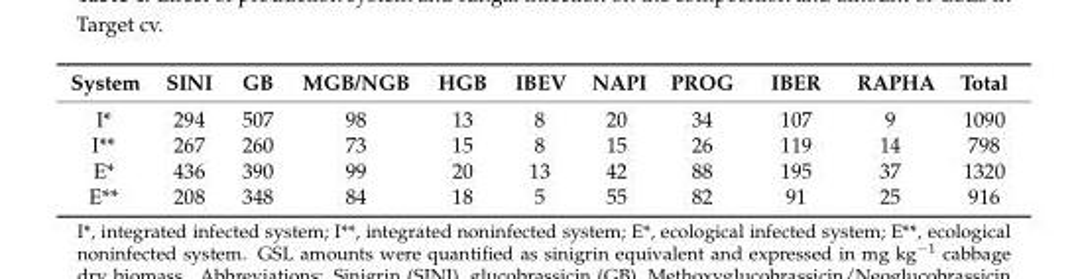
<table><thead><tr><td>System</td><td>SINI</td><td>GB</td><td>MGB/NGB</td><td>HGB</td><td>IBEV</td><td>NAPI</td><td>PROG</td><td>IBER</td><td>RAPHA</td><td>Total</td></tr></thead><tbody><tr><td>I*</td><td>294</td><td>507</td><td>98</td><td>13</td><td>8</td><td>20</td><td>34</td><td>107</td><td>9</td><td>1090</td></tr><tr><td>I**</td><td>267</td><td>260</td><td>73</td><td>15</td><td>8</td><td>15</td><td>26</td><td>119</td><td>14</td><td>798</td></tr><tr><td>E*</td><td>436</td><td>390</td><td>99</td><td>20</td><td>13</td><td>42</td><td>88</td><td>195</td><td>37</td><td>1320</td></tr><tr><td>E**</td><td>208</td><td>348</td><td>84</td><td>18</td><td>5</td><td>55</td><td>82</td><td>91</td><td>25</td><td>916</td></tr></tbody></table>